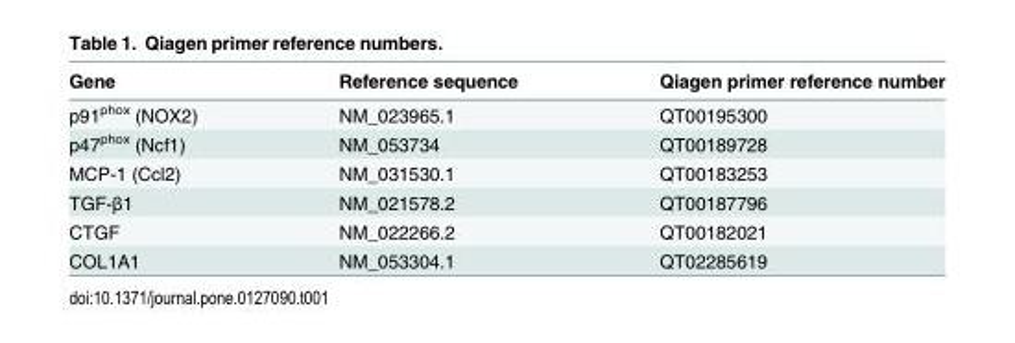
<table><thead><tr><td>Gene</td><td>Reference sequence</td><td>Qiagen primer reference number</td></tr></thead><tbody><tr><td>p91<sup>phox</sup> (NOX2)</td><td>NM_023965.1</td><td>QT00195300</td></tr><tr><td>p47<sup>phox</sup> (Ncf1)</td><td>NM_053734</td><td>QT00189728</td></tr><tr><td>MCP-1 (Ccl2)</td><td>NM_031530.1</td><td>QT00183253</td></tr><tr><td>TGF-β1</td><td>NM_021578.2</td><td>QT00187796</td></tr><tr><td>CTGF</td><td>NM_022266.2</td><td>QT00182021</td></tr><tr><td>COL1A1</td><td>NM_053304.1</td><td>QT02285619</td></tr></tbody></table>